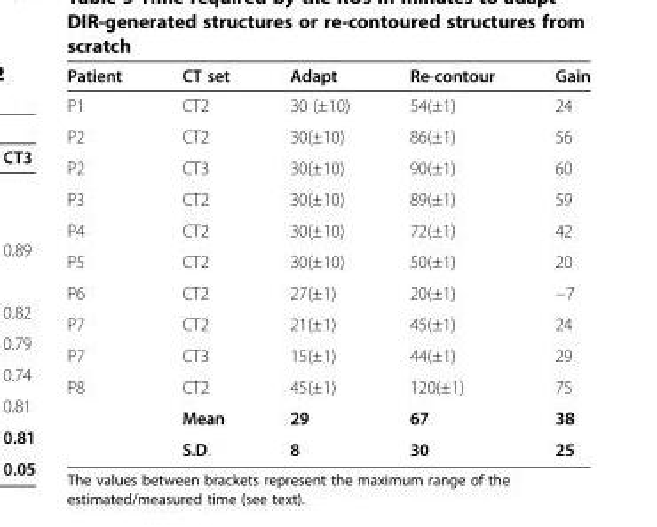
<table><thead><tr><td>Patient</td><td>CT set</td><td>Adapt</td><td>Re-contour</td><td>Gain</td></tr></thead><tbody><tr><td>P1</td><td>CT2</td><td>30 (±10)</td><td>54(±1)</td><td>24</td></tr><tr><td>P2</td><td>CT2</td><td>30(±10)</td><td>86(±1)</td><td>56</td></tr><tr><td>P2</td><td>CT3</td><td>30(±10)</td><td>90(±1)</td><td>60</td></tr><tr><td>P3</td><td>CT2</td><td>30(±10)</td><td>89(±1)</td><td>59</td></tr><tr><td>P4</td><td>CT2</td><td>30(±10)</td><td>72(±1)</td><td>42</td></tr><tr><td>P5</td><td>CT2</td><td>30(±10)</td><td>50(±1)</td><td>20</td></tr><tr><td>P6</td><td>CT2</td><td>27(±1)</td><td>20(±1)</td><td>−7</td></tr><tr><td>P7</td><td>CT2</td><td>21(±1)</td><td>45(±1)</td><td>24</td></tr><tr><td>P7</td><td>CT3</td><td>15(±1)</td><td>44(±1)</td><td>29</td></tr><tr><td rowspan="3">P8</td><td>CT2</td><td>45(±1)</td><td>120(±1)</td><td>75</td></tr><tr><td>Mean</td><td>29</td><td>67</td><td>38</td></tr><tr><td>S.D.</td><td>8</td><td>30</td><td>25</td></tr></tbody></table>